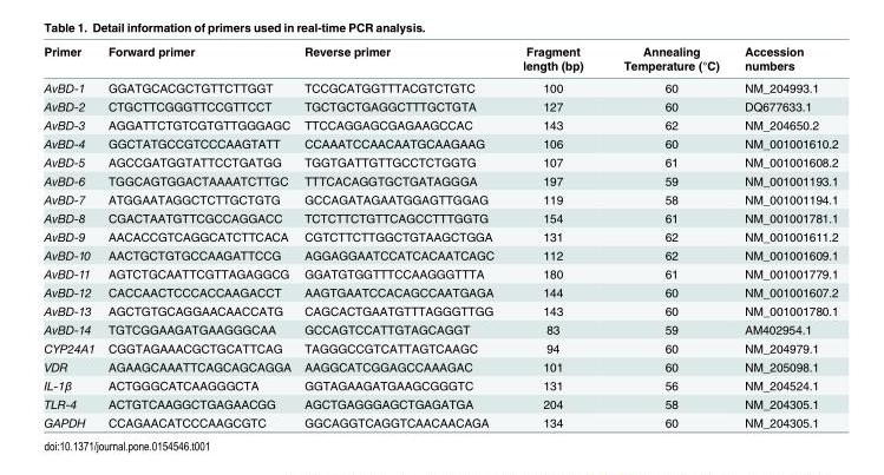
<table><thead><tr><td>Primer</td><td>Forward primer</td><td>Reverse primer</td><td>Fragment length (bp)</td><td>Annealing Temperature (°C)</td><td>Accession numbers</td></tr></thead><tbody><tr><td>AvBD-1</td><td>GGATGCACGCTGTTCTTGGT</td><td>TCCGCATGGTTTACGTCTGTC</td><td>100</td><td>60</td><td>NM_204993.1</td></tr><tr><td>AvBD-2</td><td>CTGCTTCGGGTTCCGTTCCT</td><td>TGCTGCTGAGGCTTTGCTGTA</td><td>127</td><td>60</td><td>DQ677633.1</td></tr><tr><td>AvBD-3</td><td>AGGATTCTGTCGTGTTGGGAGC</td><td>TTCCAGGAGCGAGAAGCCAC</td><td>143</td><td>62</td><td>NM_204650.2</td></tr><tr><td>AvBD-4</td><td>GGCTATGCCGTCCCAAGTATT</td><td>CCAAATCCAACAATGCAAGAAG</td><td>106</td><td>60</td><td>NM_001001610.2</td></tr><tr><td>AvBD-5</td><td>AGCCGATGGTATTCCTGATGG</td><td>TGGTGATTGTTGCCTCTGGTG</td><td>107</td><td>61</td><td>NM_001001608.2</td></tr><tr><td>AvBD-6</td><td>TGGCAGTGGACTAAAATCTTGC</td><td>TTTCACAGGTGCTGATAGGGA</td><td>197</td><td>59</td><td>NM_001001193.1</td></tr><tr><td>AvBD-7</td><td>ATGGAATAGGCTCTTGCTGTG</td><td>GCCAGATAGAATGGAGTTGGAG</td><td>119</td><td>58</td><td>NM_001001194.1</td></tr><tr><td>AvBD-8</td><td>CGACTAATGTTCGCCAGGACC</td><td>TCTCTTCTGTTCAGCCTTTGGTG</td><td>154</td><td>61</td><td>NM_001001781.1</td></tr><tr><td>AvBD-9</td><td>AACACCGTCAGGCATCTTCACA</td><td>CGTCTTCTTGGCTGTAAGCTGGA</td><td>131</td><td>62</td><td>NM_001001611.2</td></tr><tr><td>AvBD-10</td><td>AACTGCTGTGCCAAGATTCCG</td><td>AGGAGGAATCCATCACAATCAGC</td><td>112</td><td>62</td><td>NM_001001609.1</td></tr><tr><td>AvBD-11</td><td>AGTCTGCAATTCGTTAGAGGCG</td><td>GGATGTGGTTTCCAAGGGTTTA</td><td>180</td><td>61</td><td>NM_001001779.1</td></tr><tr><td>AvBD-12</td><td>CACCAACTCCCACCAAGACCT</td><td>AAGTGAATCCACAGCCAATGAGA</td><td>144</td><td>60</td><td>NM_001001607.2</td></tr><tr><td>AvBD-13</td><td>AGCTGTGCAGGAACAACCATG</td><td>CAGCACTGAATGTTTAGGGTTGG</td><td>143</td><td>60</td><td>NM_001001780.1</td></tr><tr><td>AvBD-14</td><td>TGTCGGAAGATGAAGGGCAA</td><td>GCCAGTCCATTGTAGCAGGT</td><td>83</td><td>59</td><td>AM402954.1</td></tr><tr><td>CYP24A1</td><td>CGGTAGAAACGCTGCATTCAG</td><td>TAGGGCCGTCATTAGTCAAGC</td><td>94</td><td>60</td><td>NM_204979.1</td></tr><tr><td>VDR</td><td>AGAAGCAAATTCAGCAGCAGGA</td><td>AAGGCATCGGAGCCAAAGAC</td><td>101</td><td>60</td><td>NM_205098.1</td></tr><tr><td>IL-1β</td><td>ACTGGGCATCAAGGGCTA</td><td>GGTAGAAGATGAAGCGGGTC</td><td>131</td><td>56</td><td>NM_204524.1</td></tr><tr><td>TLR-4</td><td>ACTGTCAAGGCTGAGAACGG</td><td>AGCTGAGGGAGCTGAGATGA</td><td>204</td><td>58</td><td>NM_204305.1</td></tr><tr><td>GAPDH</td><td>CCAGAACATCCCAAGCGTC</td><td>GGCAGGTCAGGTCAACAACAGA</td><td>134</td><td>60</td><td>NM_204305.1</td></tr></tbody></table>